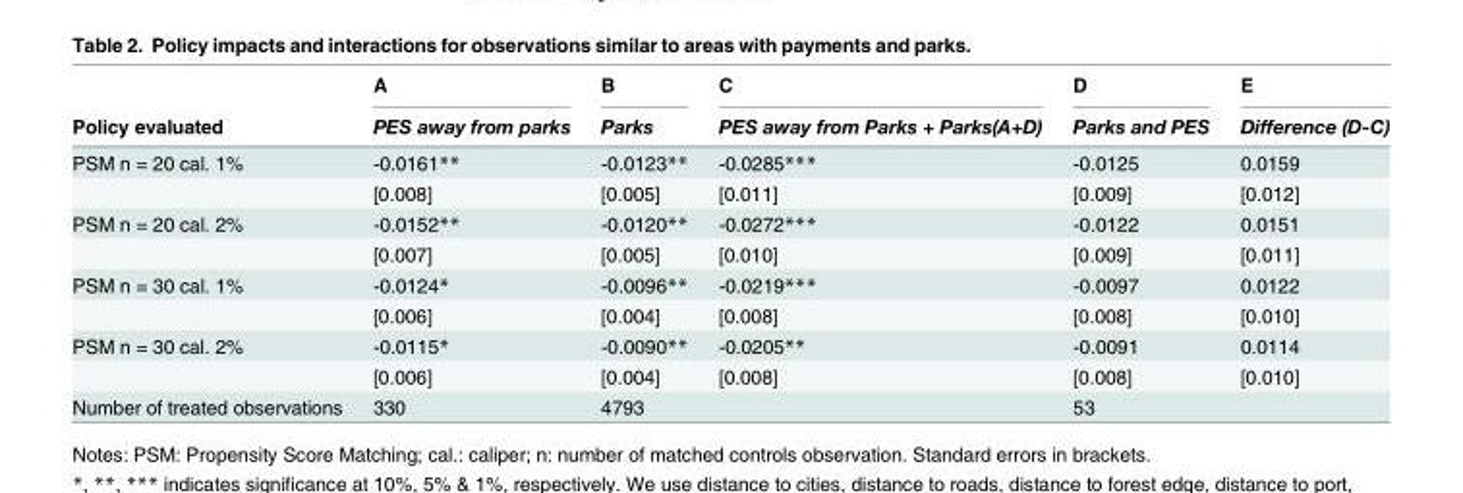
<table><thead><tr><td rowspan="2">Policy evaluated</td><td rowspan="2">A PES away from parks</td><td rowspan="2">B Parks</td><td rowspan="2">C PES away from Parks + Parks(A+D)</td><td rowspan="2">D Parks and PES</td><td rowspan="2">E Difference (D-C)</td></tr><tr></tr></thead><tbody><tr><td rowspan="2">PSM n = 20 cal. 1%</td><td>-0.0161**</td><td>-0.0123**</td><td>-0.0285***</td><td>-0.0125</td><td>0.0159</td></tr><tr><td>[0.008]</td><td>[0.005]</td><td>[0.011]</td><td>[0.009]</td><td>[0.012]</td></tr><tr><td rowspan="2">PSM n = 20 cal. 2%</td><td>-0.0152**</td><td>-0.0120**</td><td>-0.0272***</td><td>-0.0122</td><td>0.0151</td></tr><tr><td>[0.007]</td><td>[0.005]</td><td>[0.010]</td><td>[0.009]</td><td>[0.011]</td></tr><tr><td rowspan="2">PSM n = 30 cal. 1%</td><td>-0.0124*</td><td>-0.0096**</td><td>-0.0219***</td><td>-0.0097</td><td>0.0122</td></tr><tr><td>[0.006]</td><td>[0.004]</td><td>[0.008]</td><td>[0.008]</td><td>[0.010]</td></tr><tr><td rowspan="2">PSM n = 30 cal. 2%</td><td>-0.0115*</td><td>-0.0090**</td><td>-0.0205**</td><td>-0.0091</td><td>0.0114</td></tr><tr><td>[0.006]</td><td>[0.004]</td><td>[0.008]</td><td>[0.008]</td><td>[0.010]</td></tr><tr><td>Number of treated observations</td><td>330</td><td>4793</td><td></td><td>53</td><td></td></tr></tbody></table>